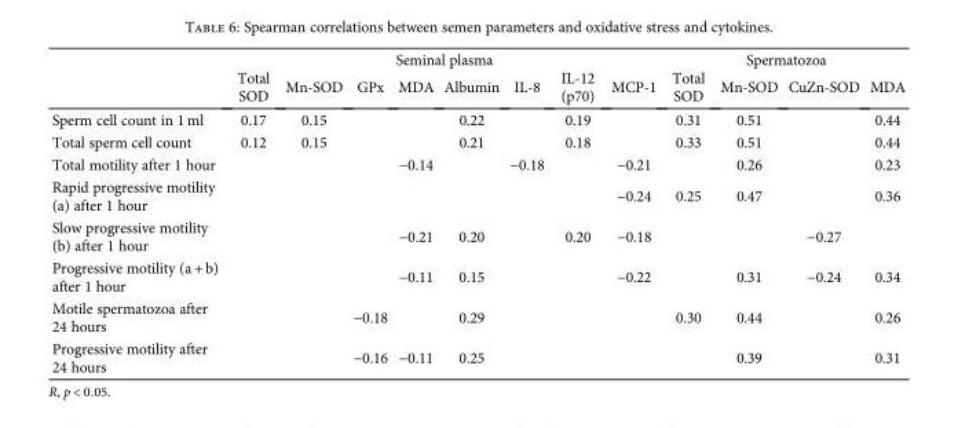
<table><thead><tr><td rowspan="2"></td><td colspan="8">Seminal plasma</td><td colspan="4">Spermatozoa</td></tr><tr><td>Total SOD</td><td>Mn-SOD</td><td>GPx</td><td>MDA</td><td>Albumin</td><td>IL-8</td><td>IL-12 (p70)</td><td>MCP-1</td><td>Total SOD</td><td>Mn-SOD</td><td>CuZn-SOD</td><td>MDA</td></tr></thead><tbody><tr><td>Sperm cell count in 1 ml</td><td>0.17</td><td>0.15</td><td></td><td></td><td>0.22</td><td></td><td>0.19</td><td></td><td>0.31</td><td>0.51</td><td></td><td>0.44</td></tr><tr><td>Total sperm cell count</td><td>0.12</td><td>0.15</td><td></td><td></td><td>0.21</td><td></td><td>0.18</td><td></td><td>0.33</td><td>0.51</td><td></td><td>0.44</td></tr><tr><td>Total motility after 1 hour</td><td></td><td></td><td></td><td>−0.14</td><td></td><td>−0.18</td><td></td><td>−0.21</td><td></td><td>0.26</td><td></td><td>0.23</td></tr><tr><td>Rapid progressive motility (a) after 1 hour</td><td></td><td></td><td></td><td></td><td></td><td></td><td></td><td>−0.24</td><td>0.25</td><td>0.47</td><td></td><td>0.36</td></tr><tr><td>Slow progressive motility (b) after 1 hour</td><td></td><td></td><td></td><td>−0.21</td><td>0.20</td><td></td><td>0.20</td><td>−0.18</td><td></td><td></td><td>−0.27</td><td></td></tr><tr><td>Progressive motility (a + b) after 1 hour</td><td></td><td></td><td></td><td>−0.11</td><td>0.15</td><td></td><td></td><td>−0.22</td><td></td><td>0.31</td><td>−0.24</td><td>0.34</td></tr><tr><td>Motile spermatozoa after 24 hours</td><td></td><td></td><td>−0.18</td><td></td><td>0.29</td><td></td><td></td><td></td><td>0.30</td><td>0.44</td><td></td><td>0.26</td></tr><tr><td>Progressive motility after 24 hours</td><td></td><td></td><td>−0.16</td><td>−0.11</td><td>0.25</td><td></td><td></td><td></td><td></td><td>0.39</td><td></td><td>0.31</td></tr></tbody></table>